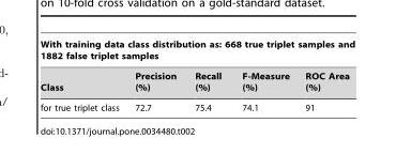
<table><thead><tr><td colspan="5">With training data class distribution as: 668 true triplet samples and 1882 false triplet samples</td></tr><tr><td>Class</td><td>Precision (%)</td><td>Recall (%)</td><td>F-Measure (%)</td><td>ROC Area (%)</td></tr></thead><tbody><tr><td>for true triplet class</td><td>72.7</td><td>75.4</td><td>74.1</td><td>91</td></tr></tbody></table>